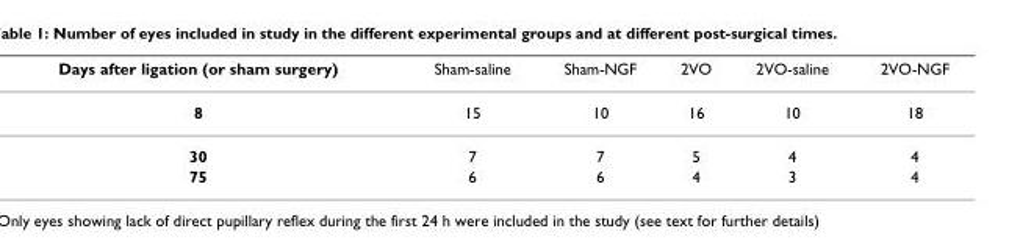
<table><thead><tr><td>Days after ligation (or sham surgery)</td><td>Sham-saline</td><td>Sham-NGF</td><td>2VO</td><td>2VO-saline</td><td>2VO-NGF</td></tr></thead><tbody><tr><td>8</td><td>15</td><td>10</td><td>16</td><td>10</td><td>18</td></tr><tr><td>30</td><td>7</td><td>7</td><td>5</td><td>4</td><td>4</td></tr><tr><td>75</td><td>6</td><td>6</td><td>4</td><td>3</td><td>4</td></tr></tbody></table>